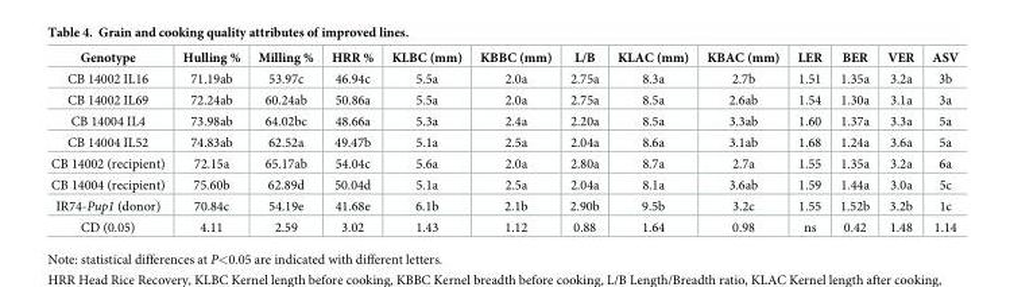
<table><thead><tr><td>Genotype</td><td>Hulling %</td><td>Milling %</td><td>HRR %</td><td>KLBC (mm)</td><td>KBBC (mm)</td><td>L/B</td><td>KLAC (mm)</td><td>KBAC (mm)</td><td>LER</td><td>BER</td><td>VER</td><td>ASV</td></tr></thead><tbody><tr><td>CB 14002 IL16</td><td>71.19ab</td><td>53.97c</td><td>46.94c</td><td>5.5a</td><td>2.0a</td><td>2.75a</td><td>8.3a</td><td>2.7b</td><td>1.51</td><td>1.35a</td><td>3.2a</td><td>3b</td></tr><tr><td>CB 14002 IL69</td><td>72.24ab</td><td>60.24ab</td><td>50.86a</td><td>5.5a</td><td>2.0a</td><td>2.75a</td><td>8.5a</td><td>2.6ab</td><td>1.54</td><td>1.30a</td><td>3.1a</td><td>3a</td></tr><tr><td>CB 14004 IL4</td><td>73.98ab</td><td>64.02bc</td><td>48.66a</td><td>5.3a</td><td>2.4a</td><td>2.20a</td><td>8.5a</td><td>3.3ab</td><td>1.60</td><td>1.37a</td><td>3.3a</td><td>5a</td></tr><tr><td>CB 14004 IL52</td><td>74.83ab</td><td>62.52a</td><td>49.47b</td><td>5.1a</td><td>2.5a</td><td>2.04a</td><td>8.6a</td><td>3.1ab</td><td>1.68</td><td>1.24a</td><td>3.6a</td><td>5a</td></tr><tr><td>CB 14002 (recipient)</td><td>72.15a</td><td>65.17ab</td><td>54.04c</td><td>5.6a</td><td>2.0a</td><td>2.80a</td><td>8.7a</td><td>2.7a</td><td>1.55</td><td>1.35a</td><td>3.2a</td><td>6a</td></tr><tr><td>CB 14004 (recipient)</td><td>75.60b</td><td>62.89d</td><td>50.04d</td><td>5.1a</td><td>2.5a</td><td>2.04a</td><td>8.1a</td><td>3.6ab</td><td>1.59</td><td>1.44a</td><td>3.0a</td><td>5c</td></tr><tr><td>IR74-Pup1 (donor)</td><td>70.84c</td><td>54.19e</td><td>41.68e</td><td>6.1b</td><td>2.1b</td><td>2.90b</td><td>9.5b</td><td>3.2c</td><td>1.55</td><td>1.52b</td><td>3.2b</td><td>1c</td></tr><tr><td>CD (0.05)</td><td>4.11</td><td>2.59</td><td>3.02</td><td>1.43</td><td>1.12</td><td>0.88</td><td>1.64</td><td>0.98</td><td>ns</td><td>0.42</td><td>1.48</td><td>1.14</td></tr></tbody></table>